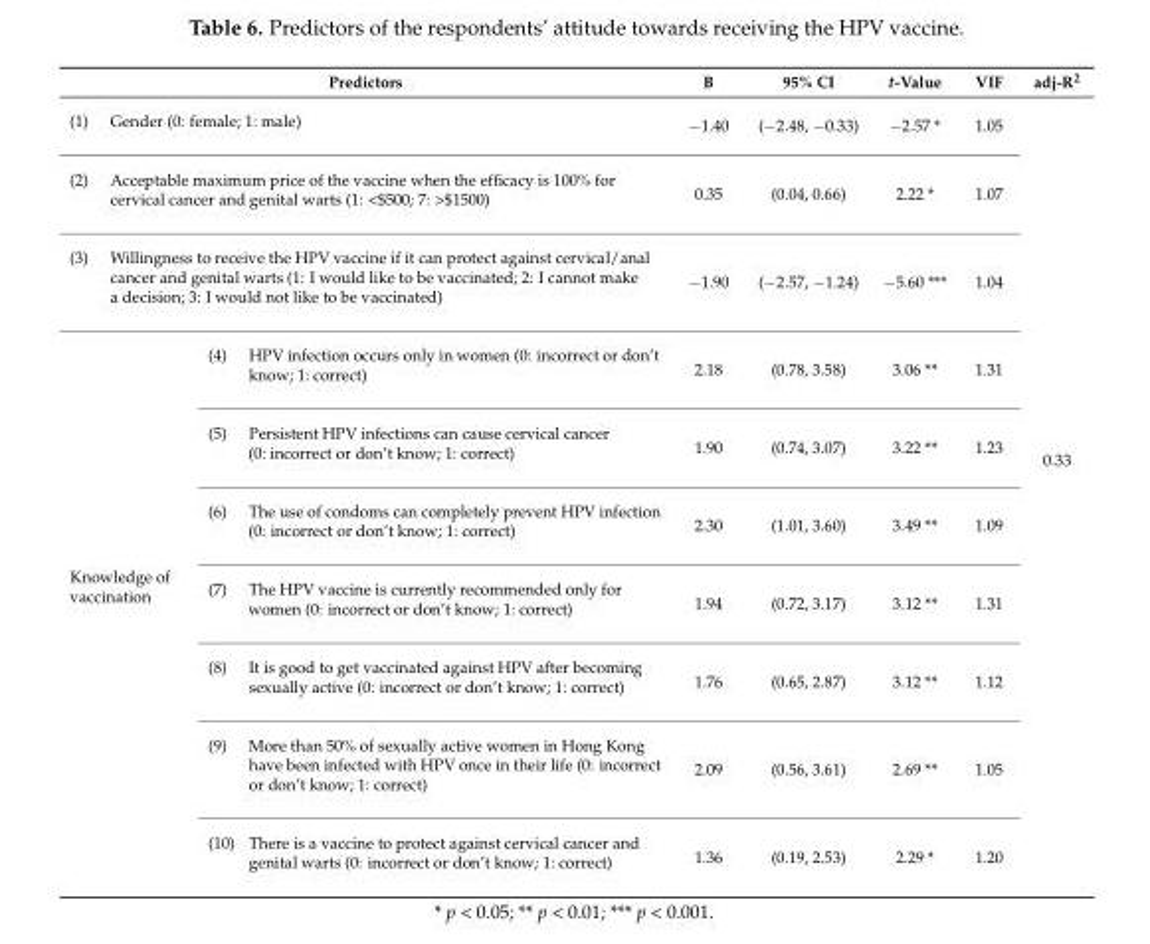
<table><thead><tr><td colspan="2">Predictors</td><td>B</td><td>95% CI</td><td>t-Value</td><td>VIF</td><td>adj-R<sup>2</sup></td></tr></thead><tbody><tr><td colspan="2">(1) Gender (0: female; 1: male)</td><td>−1.40</td><td>(−2.48, −0.33)</td><td>−2.57 *</td><td>1.05</td><td rowspan="10">0.33</td></tr><tr><td colspan="2">(2) Acceptable maximum price of the vaccine when the efficacy is 100% for cervical cancer and genital warts (1: &lt;$500; 7: &gt;$1500)</td><td>0.35</td><td>(0.04, 0.66)</td><td>2.22 *</td><td>1.07</td></tr><tr><td colspan="2">(3) Willingness to receive the HPV vaccine if it can protect against cervical/anal cancer and genital warts (1: I would like to be vaccinated; 2: I cannot make a decision; 3: I would not like to be vaccinated)</td><td>−1.90</td><td>(−2.57, −1.24)</td><td>−5.60 ***</td><td>1.04</td></tr><tr><td rowspan="7">Knowledge of vaccination</td><td>(4) HPV infection occurs only in women (0: incorrect or don’t know; 1: correct)</td><td>2.18</td><td>(0.78, 3.58)</td><td>3.06 **</td><td>1.31</td></tr><tr><td>(5) Persistent HPV infections can cause cervical cancer (0: incorrect or don’t know; 1: correct)</td><td>1.90</td><td>(0.74, 3.07)</td><td>3.22 **</td><td>1.23</td></tr><tr><td>(6) The use of condoms can completely prevent HPV infection (0: incorrect or don’t know; 1: correct)</td><td>2.30</td><td>(1.01, 3.60)</td><td>3.49 **</td><td>1.09</td></tr><tr><td>(7) The HPV vaccine is currently recommended only for women (0: incorrect or don’t know; 1: correct)</td><td>1.94</td><td>(0.72, 3.17)</td><td>3.12 **</td><td>1.31</td></tr><tr><td>(8) It is good to get vaccinated against HPV after becoming sexually active (0: incorrect or don’t know; 1: correct)</td><td>1.76</td><td>(0.65, 2.87)</td><td>3.12 **</td><td>1.12</td></tr><tr><td>(9) More than 50% of sexually active women in Hong Kong have been infected with HPV once in their life (0: incorrect or don’t know; 1: correct)</td><td>2.09</td><td>(0.56, 3.61)</td><td>2.69 **</td><td>1.05</td></tr><tr><td>(10) There is a vaccine to protect against cervical cancer and genital warts (0: incorrect or don’t know; 1: correct)</td><td>1.36</td><td>(0.19, 2.53)</td><td>2.29 *</td><td>1.20</td></tr></tbody></table>